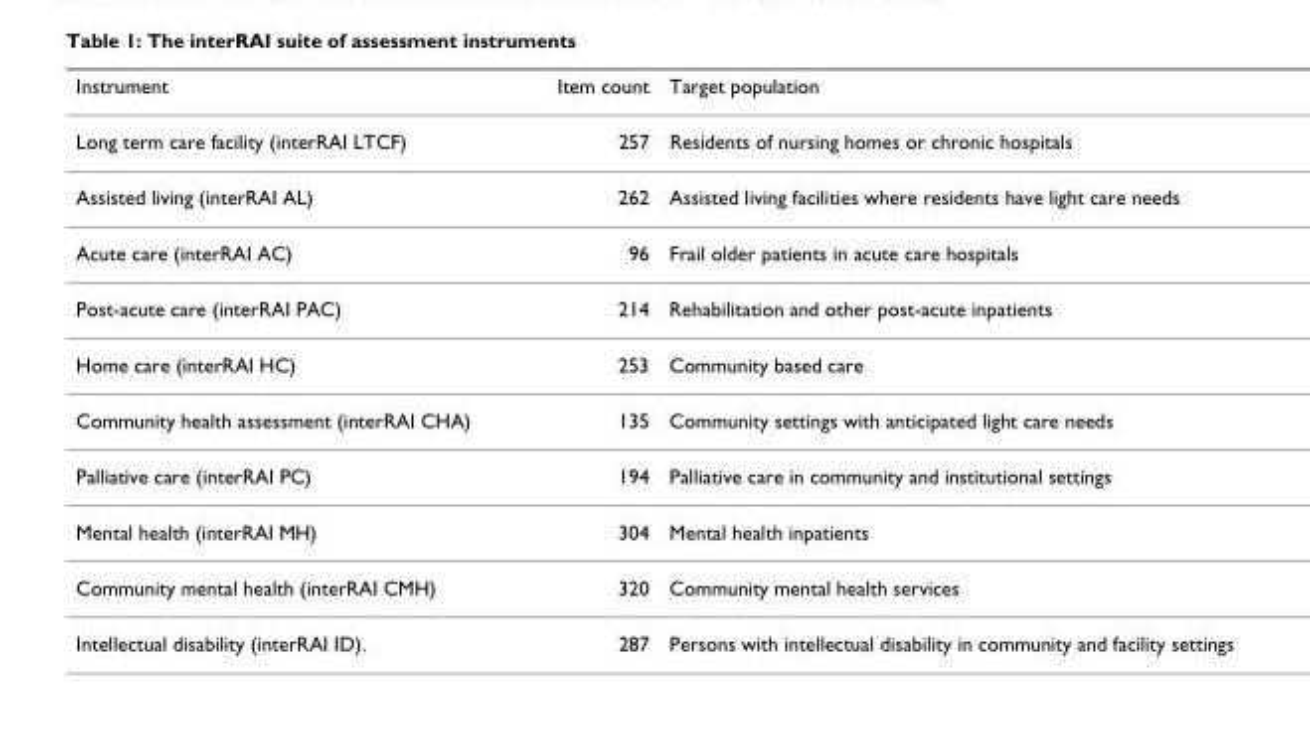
<table><thead><tr><td>Instrument</td><td>Item count</td><td>Target population</td></tr></thead><tbody><tr><td>Long term care facility (interRAI LTCF)</td><td>257</td><td>Residents of nursing homes or chronic hospitals</td></tr><tr><td>Assisted living (interRAI AL)</td><td>262</td><td>Assisted living facilities where residents have light care needs</td></tr><tr><td>Acute care (interRAI AC)</td><td>96</td><td>Frail older patients in acute care hospitals</td></tr><tr><td>Post-acute care (interRAI PAC)</td><td>214</td><td>Rehabilitation and other post-acute inpatients</td></tr><tr><td>Home care (interRAI HC)</td><td>253</td><td>Community based care</td></tr><tr><td>Community health assessment (interRAI CHA)</td><td>135</td><td>Community settings with anticipated light care needs</td></tr><tr><td>Palliative care (interRAI PC)</td><td>194</td><td>Palliative care in community and institutional settings</td></tr><tr><td>Mental health (interRAI MH)</td><td>304</td><td>Mental health inpatients</td></tr><tr><td>Community mental health (interRAI CMH)</td><td>320</td><td>Community mental health services</td></tr><tr><td>Intellectual disability (interRAI ID).</td><td>287</td><td>Persons with intellectual disability in community and facility settings</td></tr></tbody></table>